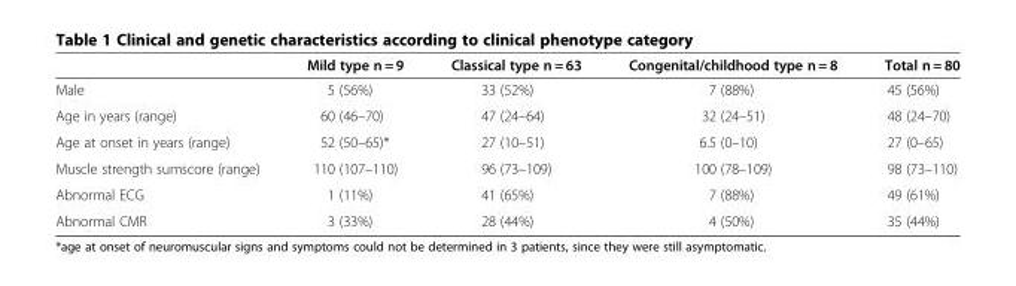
<table><thead><tr><td></td><td>Mild type n = 9</td><td>Classical type n = 63</td><td>Congenital/childhood type n = 8</td><td>Total n = 80</td></tr></thead><tbody><tr><td>Male</td><td>5 (56%)</td><td>33 (52%)</td><td>7 (88%)</td><td>45 (56%)</td></tr><tr><td>Age in years (range)</td><td>60 (46–70)</td><td>47 (24–64)</td><td>32 (24–51)</td><td>48 (24–70)</td></tr><tr><td>Age at onset in years (range)</td><td>52 (50–65)*</td><td>27 (10–51)</td><td>6.5 (0–10)</td><td>27 (0–65)</td></tr><tr><td>Muscle strength sumscore (range)</td><td>110 (107–110)</td><td>96 (73–109)</td><td>100 (78–109)</td><td>98 (73–110)</td></tr><tr><td>Abnormal ECG</td><td>1 (11%)</td><td>41 (65%)</td><td>7 (88%)</td><td>49 (61%)</td></tr><tr><td>Abnormal CMR</td><td>3 (33%)</td><td>28 (44%)</td><td>4 (50%)</td><td>35 (44%)</td></tr></tbody></table>